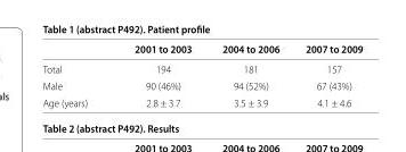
<table><thead><tr><td></td><td>2001 to 2003</td><td>2004 to 2006</td><td>2007 to 2009</td></tr></thead><tbody><tr><td>Total</td><td>194</td><td>181</td><td>157</td></tr><tr><td>Male</td><td>90 (46%)</td><td>94 (52%)</td><td>67 (43%)</td></tr><tr><td>Age (years)</td><td>2.8 ± 3.7</td><td>3.5 ± 3.9</td><td>4.1 ± 4.6</td></tr></tbody></table>